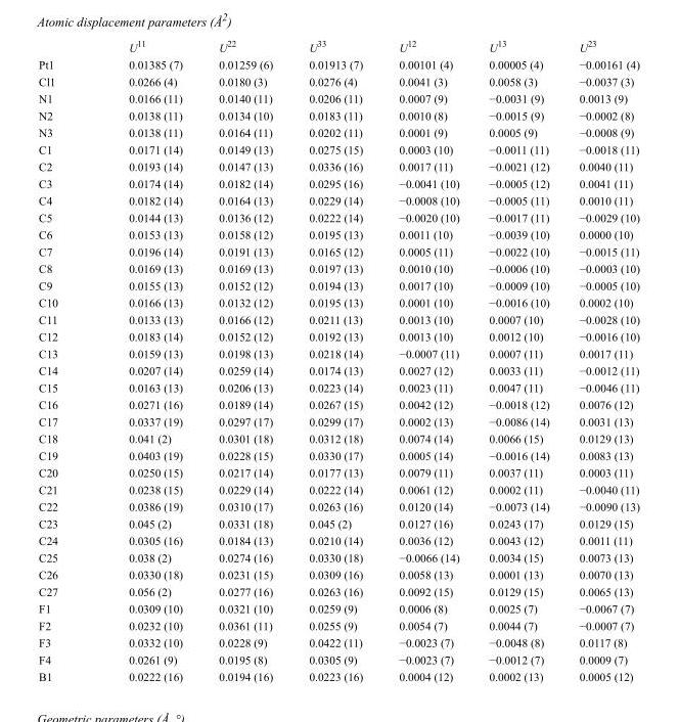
<table><thead><tr><td></td><td>U<sup>11</sup></td><td>U<sup>22</sup></td><td>U<sup>33</sup></td><td>U<sup>12</sup></td><td>U<sup>13</sup></td><td>U<sup>23</sup></td></tr></thead><tbody><tr><td>Pt1</td><td>0.01385 (7)</td><td>0.01259 (6)</td><td>0.01913 (7)</td><td>0.00101 (4)</td><td>0.00005 (4)</td><td>−0.00161 (4)</td></tr><tr><td>Cl1</td><td>0.0266 (4)</td><td>0.0180 (3)</td><td>0.0276 (4)</td><td>0.0041 (3)</td><td>0.0058 (3)</td><td>−0.0037 (3)</td></tr><tr><td>N1</td><td>0.0166 (11)</td><td>0.0140 (11)</td><td>0.0206 (11)</td><td>0.0007 (9)</td><td>−0.0031 (9)</td><td>0.0013 (9)</td></tr><tr><td>N2</td><td>0.0138 (11)</td><td>0.0134 (10)</td><td>0.0183 (11)</td><td>0.0010 (8)</td><td>−0.0015 (9)</td><td>−0.0002 (8)</td></tr><tr><td>N3</td><td>0.0138 (11)</td><td>0.0164 (11)</td><td>0.0202 (11)</td><td>0.0001 (9)</td><td>0.0005 (9)</td><td>−0.0008 (9)</td></tr><tr><td>C1</td><td>0.0171 (14)</td><td>0.0149 (13)</td><td>0.0275 (15)</td><td>0.0003 (10)</td><td>−0.0011 (11)</td><td>−0.0018 (11)</td></tr><tr><td>C2</td><td>0.0193 (14)</td><td>0.0147 (13)</td><td>0.0336 (16)</td><td>0.0017 (11)</td><td>−0.0021 (12)</td><td>0.0040 (11)</td></tr><tr><td>C3</td><td>0.0174 (14)</td><td>0.0182 (14)</td><td>0.0295 (16)</td><td>−0.0041 (10)</td><td>−0.0005 (12)</td><td>0.0041 (11)</td></tr><tr><td>C4</td><td>0.0182 (14)</td><td>0.0164 (13)</td><td>0.0229 (14)</td><td>−0.0008 (10)</td><td>−0.0005 (11)</td><td>0.0010 (11)</td></tr><tr><td>C5</td><td>0.0144 (13)</td><td>0.0136 (12)</td><td>0.0222 (14)</td><td>−0.0020 (10)</td><td>−0.0017 (11)</td><td>−0.0029 (10)</td></tr><tr><td>C6</td><td>0.0153 (13)</td><td>0.0158 (12)</td><td>0.0195 (13)</td><td>0.0011 (10)</td><td>−0.0039 (10)</td><td>0.0000 (10)</td></tr><tr><td>C7</td><td>0.0196 (14)</td><td>0.0191 (13)</td><td>0.0165 (12)</td><td>0.0005 (11)</td><td>−0.0022 (10)</td><td>−0.0015 (11)</td></tr><tr><td>C8</td><td>0.0169 (13)</td><td>0.0169 (13)</td><td>0.0197 (13)</td><td>0.0010 (10)</td><td>−0.0006 (10)</td><td>−0.0003 (10)</td></tr><tr><td>C9</td><td>0.0155 (13)</td><td>0.0152 (12)</td><td>0.0194 (13)</td><td>0.0017 (10)</td><td>−0.0009 (10)</td><td>−0.0005 (10)</td></tr><tr><td>C10</td><td>0.0166 (13)</td><td>0.0132 (12)</td><td>0.0195 (13)</td><td>0.0001 (10)</td><td>−0.0016 (10)</td><td>0.0002 (10)</td></tr><tr><td>C11</td><td>0.0133 (13)</td><td>0.0166 (12)</td><td>0.0211 (13)</td><td>0.0013 (10)</td><td>0.0007 (10)</td><td>−0.0028 (10)</td></tr><tr><td>C12</td><td>0.0183 (14)</td><td>0.0152 (12)</td><td>0.0192 (13)</td><td>0.0013 (10)</td><td>0.0012 (10)</td><td>−0.0016 (10)</td></tr><tr><td>C13</td><td>0.0159 (13)</td><td>0.0198 (13)</td><td>0.0218 (14)</td><td>−0.0007 (11)</td><td>0.0007 (11)</td><td>0.0017 (11)</td></tr><tr><td>C14</td><td>0.0207 (14)</td><td>0.0259 (14)</td><td>0.0174 (13)</td><td>0.0027 (12)</td><td>0.0033 (11)</td><td>−0.0012 (11)</td></tr><tr><td>C15</td><td>0.0163 (13)</td><td>0.0206 (13)</td><td>0.0223 (14)</td><td>0.0023 (11)</td><td>0.0047 (11)</td><td>−0.0046 (11)</td></tr><tr><td>C16</td><td>0.0271 (16)</td><td>0.0189 (14)</td><td>0.0267 (15)</td><td>0.0042 (12)</td><td>−0.0018 (12)</td><td>0.0076 (12)</td></tr><tr><td>C17</td><td>0.0337 (19)</td><td>0.0297 (17)</td><td>0.0299 (17)</td><td>0.0002 (13)</td><td>−0.0086 (14)</td><td>0.0031 (13)</td></tr><tr><td>C18</td><td>0.041 (2)</td><td>0.0301 (18)</td><td>0.0312 (18)</td><td>0.0074 (14)</td><td>0.0066 (15)</td><td>0.0129 (13)</td></tr><tr><td>C19</td><td>0.0403 (19)</td><td>0.0228 (15)</td><td>0.0330 (17)</td><td>0.0005 (14)</td><td>−0.0016 (14)</td><td>0.0083 (13)</td></tr><tr><td>C20</td><td>0.0250 (15)</td><td>0.0217 (14)</td><td>0.0177 (13)</td><td>0.0079 (11)</td><td>0.0037 (11)</td><td>0.0003 (11)</td></tr><tr><td>C21</td><td>0.0238 (15)</td><td>0.0229 (14)</td><td>0.0222 (14)</td><td>0.0061 (12)</td><td>0.0002 (11)</td><td>−0.0040 (11)</td></tr><tr><td>C22</td><td>0.0386 (19)</td><td>0.0310 (17)</td><td>0.0263 (16)</td><td>0.0120 (14)</td><td>−0.0073 (14)</td><td>−0.0090 (13)</td></tr><tr><td>C23</td><td>0.045 (2)</td><td>0.0331 (18)</td><td>0.045 (2)</td><td>0.0127 (16)</td><td>0.0243 (17)</td><td>0.0129 (15)</td></tr><tr><td>C24</td><td>0.0305 (16)</td><td>0.0184 (13)</td><td>0.0210 (14)</td><td>0.0036 (12)</td><td>0.0043 (12)</td><td>0.0011 (11)</td></tr><tr><td>C25</td><td>0.038 (2)</td><td>0.0274 (16)</td><td>0.0330 (18)</td><td>−0.0066 (14)</td><td>0.0034 (15)</td><td>0.0073 (13)</td></tr><tr><td>C26</td><td>0.0330 (18)</td><td>0.0231 (15)</td><td>0.0309 (16)</td><td>0.0058 (13)</td><td>0.0001 (13)</td><td>0.0070 (13)</td></tr><tr><td>C27</td><td>0.056 (2)</td><td>0.0277 (16)</td><td>0.0263 (16)</td><td>0.0092 (15)</td><td>0.0129 (15)</td><td>0.0065 (13)</td></tr><tr><td>F1</td><td>0.0309 (10)</td><td>0.0321 (10)</td><td>0.0259 (9)</td><td>0.0006 (8)</td><td>0.0025 (7)</td><td>−0.0067 (7)</td></tr><tr><td>F2</td><td>0.0232 (10)</td><td>0.0361 (11)</td><td>0.0255 (9)</td><td>0.0054 (7)</td><td>0.0044 (7)</td><td>−0.0007 (7)</td></tr><tr><td>F3</td><td>0.0332 (10)</td><td>0.0228 (9)</td><td>0.0422 (11)</td><td>−0.0023 (7)</td><td>−0.0048 (8)</td><td>0.0117 (8)</td></tr><tr><td>F4</td><td>0.0261 (9)</td><td>0.0195 (8)</td><td>0.0305 (9)</td><td>−0.0023 (7)</td><td>−0.0012 (7)</td><td>0.0009 (7)</td></tr><tr><td>B1</td><td>0.0222 (16)</td><td>0.0194 (16)</td><td>0.0223 (16)</td><td>0.0004 (12)</td><td>0.0002 (13)</td><td>0.0005 (12)</td></tr></tbody></table>